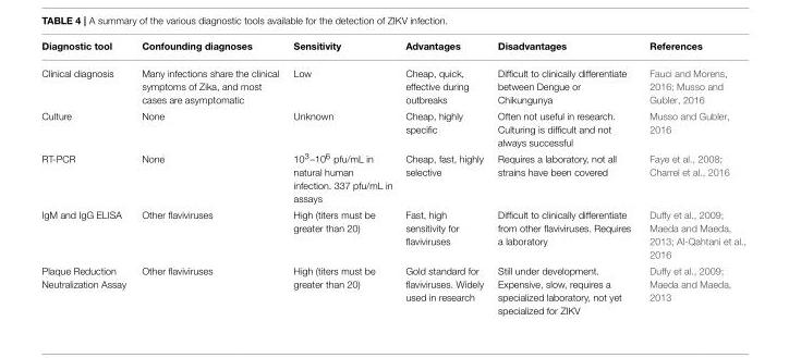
<table><thead><tr><td>Diagnostic tool</td><td>Confounding diagnoses</td><td>Sensitivity</td><td>Advantages</td><td>Disadvantages</td><td>References</td></tr></thead><tbody><tr><td>Clinical diagnosis</td><td>Many infections share the clinical symptoms of Zika, and most cases are asymptomatic</td><td>Low</td><td>Cheap, quick, effective during outbreaks</td><td>Difficult to clinically differentiate between Dengue or Chikungunya</td><td>Fauci and Morens, 2016; Musso and Gubler, 2016</td></tr><tr><td>Culture</td><td>None</td><td>Unknown</td><td>Cheap, highly specific</td><td>Often not useful in research. Culturing is difficult and not always successful</td><td>Musso and Gubler, 2016</td></tr><tr><td>RT-PCR</td><td>None</td><td>10<sup>3</sup>–10<sup>6</sup> pfu/mL in natural human infection. 337 pfu/mL in assays</td><td>Cheap, fast, highly selective</td><td>Requires a laboratory, not all strains have been covered</td><td>Faye et al., 2008; Charrel et al., 2016</td></tr><tr><td>IgM and IgG ELISA</td><td>Other flaviviruses</td><td>High (titers must be greater than 20)</td><td>Fast, high sensitivity for flaviviruses</td><td>Difficult to clinically differentiate from other flaviviruses. Requires a laboratory</td><td>Duffy et al., 2009; Maeda and Maeda, 2013; Al-Qahtani et al., 2016</td></tr><tr><td>Plaque Reduction Neutralization Assay</td><td>Other flaviviruses</td><td>High (titers must be greater than 20)</td><td>Gold standard for flaviviruses. Widely used in research</td><td>Still under development. Expensive, slow, requires a specialized laboratory, not yet specialized for ZIKV</td><td>Duffy et al., 2009; Maeda and Maeda, 2013</td></tr></tbody></table>